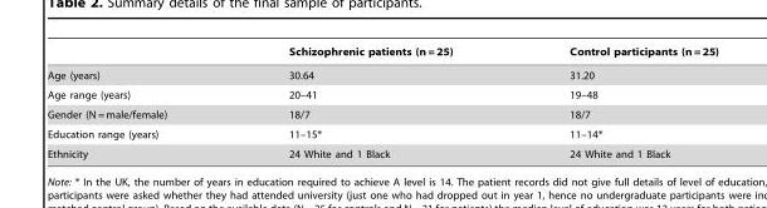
<table><thead><tr><td></td><td>Schizophrenic patients (n = 25)</td><td>Control participants (n = 25)</td></tr></thead><tbody><tr><td>Age (years)</td><td>30.64</td><td>31.20</td></tr><tr><td>Age range (years)</td><td>20–41</td><td>19–48</td></tr><tr><td>Gender (N = male/female)</td><td>18/7</td><td>18/7</td></tr><tr><td>Education range (years)</td><td>11–15*</td><td>11–14*</td></tr><tr><td>Ethnicity</td><td>24 White and 1 Black</td><td>24 White and 1 Black</td></tr></tbody></table>